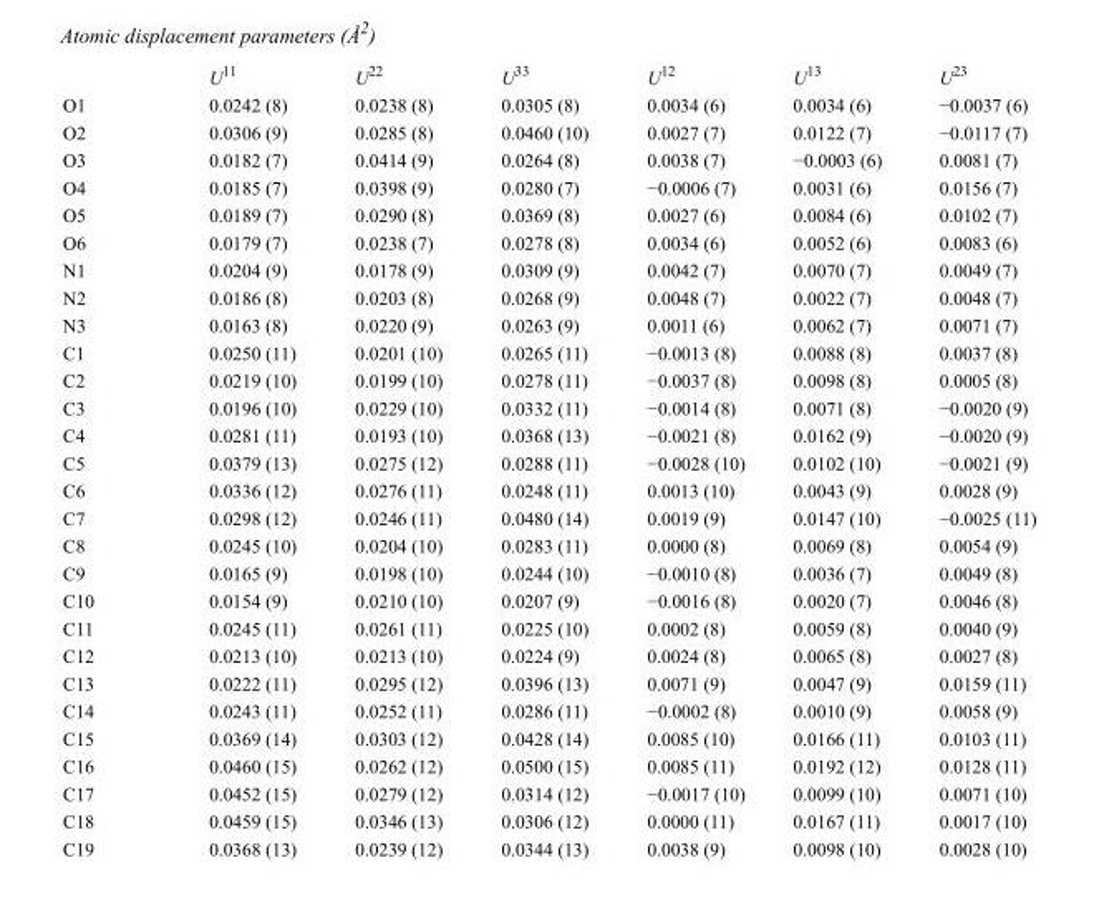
<table><thead><tr><td></td><td>U<sup>11</sup></td><td>U<sup>22</sup></td><td>U<sup>33</sup></td><td>U<sup>12</sup></td><td>U<sup>13</sup></td><td>U<sup>23</sup></td></tr></thead><tbody><tr><td>O1</td><td>0.0242 (8)</td><td>0.0238 (8)</td><td>0.0305 (8)</td><td>0.0034 (6)</td><td>0.0034 (6)</td><td>−0.0037 (6)</td></tr><tr><td>O2</td><td>0.0306 (9)</td><td>0.0285 (8)</td><td>0.0460 (10)</td><td>0.0027 (7)</td><td>0.0122 (7)</td><td>−0.0117 (7)</td></tr><tr><td>O3</td><td>0.0182 (7)</td><td>0.0414 (9)</td><td>0.0264 (8)</td><td>0.0038 (7)</td><td>−0.0003 (6)</td><td>0.0081 (7)</td></tr><tr><td>O4</td><td>0.0185 (7)</td><td>0.0398 (9)</td><td>0.0280 (7)</td><td>−0.0006 (7)</td><td>0.0031 (6)</td><td>0.0156 (7)</td></tr><tr><td>O5</td><td>0.0189 (7)</td><td>0.0290 (8)</td><td>0.0369 (8)</td><td>0.0027 (6)</td><td>0.0084 (6)</td><td>0.0102 (7)</td></tr><tr><td>O6</td><td>0.0179 (7)</td><td>0.0238 (7)</td><td>0.0278 (8)</td><td>0.0034 (6)</td><td>0.0052 (6)</td><td>0.0083 (6)</td></tr><tr><td>N1</td><td>0.0204 (9)</td><td>0.0178 (9)</td><td>0.0309 (9)</td><td>0.0042 (7)</td><td>0.0070 (7)</td><td>0.0049 (7)</td></tr><tr><td>N2</td><td>0.0186 (8)</td><td>0.0203 (8)</td><td>0.0268 (9)</td><td>0.0048 (7)</td><td>0.0022 (7)</td><td>0.0048 (7)</td></tr><tr><td>N3</td><td>0.0163 (8)</td><td>0.0220 (9)</td><td>0.0263 (9)</td><td>0.0011 (6)</td><td>0.0062 (7)</td><td>0.0071 (7)</td></tr><tr><td>C1</td><td>0.0250 (11)</td><td>0.0201 (10)</td><td>0.0265 (11)</td><td>−0.0013 (8)</td><td>0.0088 (8)</td><td>0.0037 (8)</td></tr><tr><td>C2</td><td>0.0219 (10)</td><td>0.0199 (10)</td><td>0.0278 (11)</td><td>−0.0037 (8)</td><td>0.0098 (8)</td><td>0.0005 (8)</td></tr><tr><td>C3</td><td>0.0196 (10)</td><td>0.0229 (10)</td><td>0.0332 (11)</td><td>−0.0014 (8)</td><td>0.0071 (8)</td><td>−0.0020 (9)</td></tr><tr><td>C4</td><td>0.0281 (11)</td><td>0.0193 (10)</td><td>0.0368 (13)</td><td>−0.0021 (8)</td><td>0.0162 (9)</td><td>−0.0020 (9)</td></tr><tr><td>C5</td><td>0.0379 (13)</td><td>0.0275 (12)</td><td>0.0288 (11)</td><td>−0.0028 (10)</td><td>0.0102 (10)</td><td>−0.0021 (9)</td></tr><tr><td>C6</td><td>0.0336 (12)</td><td>0.0276 (11)</td><td>0.0248 (11)</td><td>0.0013 (10)</td><td>0.0043 (9)</td><td>0.0028 (9)</td></tr><tr><td>C7</td><td>0.0298 (12)</td><td>0.0246 (11)</td><td>0.0480 (14)</td><td>0.0019 (9)</td><td>0.0147 (10)</td><td>−0.0025 (11)</td></tr><tr><td>C8</td><td>0.0245 (10)</td><td>0.0204 (10)</td><td>0.0283 (11)</td><td>0.0000 (8)</td><td>0.0069 (8)</td><td>0.0054 (9)</td></tr><tr><td>C9</td><td>0.0165 (9)</td><td>0.0198 (10)</td><td>0.0244 (10)</td><td>−0.0010 (8)</td><td>0.0036 (7)</td><td>0.0049 (8)</td></tr><tr><td>C10</td><td>0.0154 (9)</td><td>0.0210 (10)</td><td>0.0207 (9)</td><td>−0.0016 (8)</td><td>0.0020 (7)</td><td>0.0046 (8)</td></tr><tr><td>C11</td><td>0.0245 (11)</td><td>0.0261 (11)</td><td>0.0225 (10)</td><td>0.0002 (8)</td><td>0.0059 (8)</td><td>0.0040 (9)</td></tr><tr><td>C12</td><td>0.0213 (10)</td><td>0.0213 (10)</td><td>0.0224 (9)</td><td>0.0024 (8)</td><td>0.0065 (8)</td><td>0.0027 (8)</td></tr><tr><td>C13</td><td>0.0222 (11)</td><td>0.0295 (12)</td><td>0.0396 (13)</td><td>0.0071 (9)</td><td>0.0047 (9)</td><td>0.0159 (11)</td></tr><tr><td>C14</td><td>0.0243 (11)</td><td>0.0252 (11)</td><td>0.0286 (11)</td><td>−0.0002 (8)</td><td>0.0010 (9)</td><td>0.0058 (9)</td></tr><tr><td>C15</td><td>0.0369 (14)</td><td>0.0303 (12)</td><td>0.0428 (14)</td><td>0.0085 (10)</td><td>0.0166 (11)</td><td>0.0103 (11)</td></tr><tr><td>C16</td><td>0.0460 (15)</td><td>0.0262 (12)</td><td>0.0500 (15)</td><td>0.0085 (11)</td><td>0.0192 (12)</td><td>0.0128 (11)</td></tr><tr><td>C17</td><td>0.0452 (15)</td><td>0.0279 (12)</td><td>0.0314 (12)</td><td>−0.0017 (10)</td><td>0.0099 (10)</td><td>0.0071 (10)</td></tr><tr><td>C18</td><td>0.0459 (15)</td><td>0.0346 (13)</td><td>0.0306 (12)</td><td>0.0000 (11)</td><td>0.0167 (11)</td><td>0.0017 (10)</td></tr><tr><td>C19</td><td>0.0368 (13)</td><td>0.0239 (12)</td><td>0.0344 (13)</td><td>0.0038 (9)</td><td>0.0098 (10)</td><td>0.0028 (10)</td></tr></tbody></table>